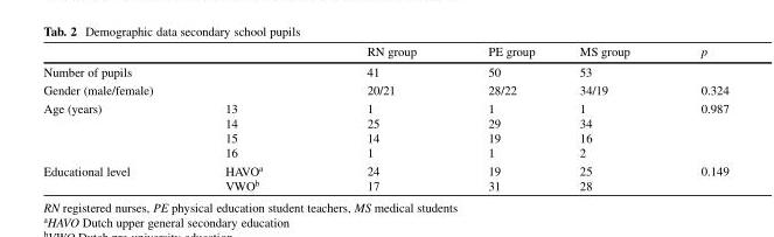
<table><thead><tr><td></td><td></td><td>RN group</td><td>PE group</td><td>MS group</td><td>p</td></tr></thead><tbody><tr><td colspan="2">Number of pupils</td><td>41</td><td>50</td><td>53</td><td></td></tr><tr><td colspan="2">Gender (male/female)</td><td>20/21</td><td>28/22</td><td>34/19</td><td>0.324</td></tr><tr><td>Age (years)</td><td>13 14 15 16</td><td>1 25 14 1</td><td>1 29 19 1</td><td>1 34 16 2</td><td>0.987</td></tr><tr><td>Educational level</td><td>HAVO<sup>a</sup> VWO<sup>b</sup></td><td>24 17</td><td>19 31</td><td>25 28</td><td>0.149</td></tr></tbody></table>